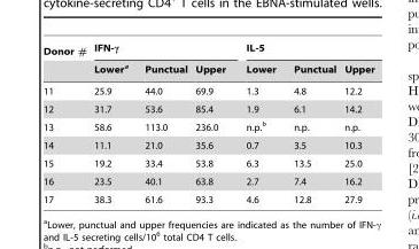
<table><thead><tr><td rowspan="2">Donor #</td><td colspan="3">IFN-γ</td><td colspan="3">IL-5</td></tr><tr><td>Lower<sup>a</sup></td><td>Punctual</td><td>Upper</td><td>Lower</td><td>Punctual</td><td>Upper</td></tr></thead><tbody><tr><td>11</td><td>25.9</td><td>44.0</td><td>69.9</td><td>1.3</td><td>4.8</td><td>12.2</td></tr><tr><td>12</td><td>31.7</td><td>53.6</td><td>85.4</td><td>1.9</td><td>6.1</td><td>14.2</td></tr><tr><td>13</td><td>58.6</td><td>113.0</td><td>236.0</td><td>n.p.<sup>b</sup></td><td>n.p.</td><td>n.p.</td></tr><tr><td>14</td><td>11.1</td><td>21.0</td><td>35.6</td><td>0.7</td><td>3.5</td><td>10.3</td></tr><tr><td>15</td><td>19.2</td><td>33.4</td><td>53.8</td><td>6.3</td><td>13.5</td><td>25.0</td></tr><tr><td>16</td><td>23.5</td><td>40.1</td><td>63.8</td><td>2.7</td><td>7.4</td><td>16.2</td></tr><tr><td>17</td><td>38.3</td><td>61.6</td><td>93.3</td><td>4.6</td><td>12.8</td><td>27.9</td></tr></tbody></table>